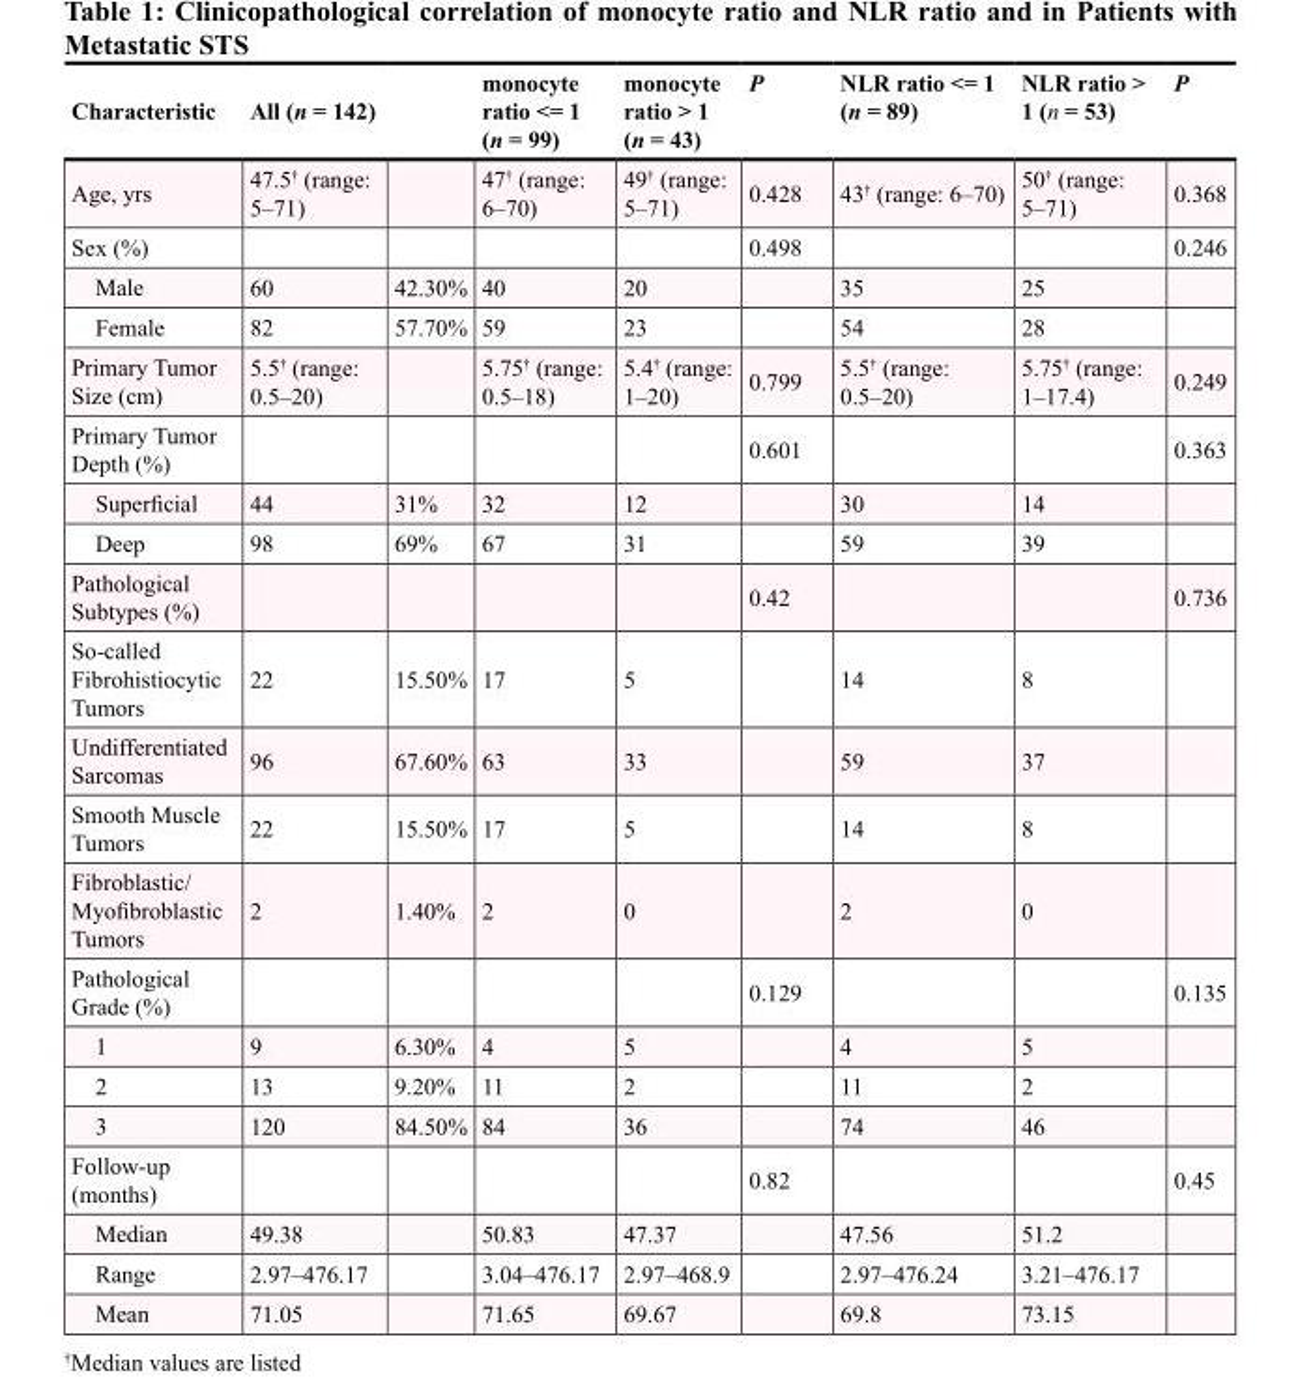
<table><thead><tr><td>Characteristic</td><td>All (n = 142)</td><td></td><td>monocyte ratio &lt;= 1 (n = 99)</td><td>monocyte ratio &gt; 1 (n = 43)</td><td>P</td><td>NLR ratio &lt;= 1 (n = 89)</td><td>NLR ratio &gt; 1 (n = 53)</td><td>P</td></tr></thead><tbody><tr><td>Age, yrs</td><td>47.5<sup>†</sup> (range: 5–71)</td><td></td><td>47<sup>†</sup> (range: 6–70)</td><td>49<sup>†</sup> (range: 5–71)</td><td>0.428</td><td>43<sup>†</sup> (range: 6–70)</td><td>50<sup>†</sup> (range: 5–71)</td><td>0.368</td></tr><tr><td>Sex (%)</td><td></td><td></td><td></td><td></td><td>0.498</td><td></td><td></td><td>0.246</td></tr><tr><td>Male</td><td>60</td><td>42.30%</td><td>40</td><td>20</td><td></td><td>35</td><td>25</td><td></td></tr><tr><td>Female</td><td>82</td><td>57.70%</td><td>59</td><td>23</td><td></td><td>54</td><td>28</td><td></td></tr><tr><td>Primary Tumor Size (cm)</td><td>5.5<sup>†</sup> (range: 0.5–20)</td><td></td><td>5.75<sup>†</sup> (range: 0.5–18)</td><td>5.4<sup>†</sup> (range: 1–20)</td><td>0.799</td><td>5.5<sup>†</sup> (range: 0.5–20)</td><td>5.75<sup>†</sup> (range: 1–17.4)</td><td>0.249</td></tr><tr><td>Primary Tumor Depth (%)</td><td></td><td></td><td></td><td></td><td>0.601</td><td></td><td></td><td>0.363</td></tr><tr><td>Superficial</td><td>44</td><td>31%</td><td>32</td><td>12</td><td></td><td>30</td><td>14</td><td></td></tr><tr><td>Deep</td><td>98</td><td>69%</td><td>67</td><td>31</td><td></td><td>59</td><td>39</td><td></td></tr><tr><td>Pathological Subtypes (%)</td><td></td><td></td><td></td><td></td><td>0.42</td><td></td><td></td><td>0.736</td></tr><tr><td>So-called Fibrohistiocytic Tumors</td><td>22</td><td>15.50%</td><td>17</td><td>5</td><td></td><td>14</td><td>8</td><td></td></tr><tr><td>Undifferentiated Sarcomas</td><td>96</td><td>67.60%</td><td>63</td><td>33</td><td></td><td>59</td><td>37</td><td></td></tr><tr><td>Smooth Muscle Tumors</td><td>22</td><td>15.50%</td><td>17</td><td>5</td><td></td><td>14</td><td>8</td><td></td></tr><tr><td>Fibroblastic/ Myofibroblastic Tumors</td><td>2</td><td>1.40%</td><td>2</td><td>0</td><td></td><td>2</td><td>0</td><td></td></tr><tr><td>Pathological Grade (%)</td><td></td><td></td><td></td><td></td><td>0.129</td><td></td><td></td><td>0.135</td></tr><tr><td>1</td><td>9</td><td>6.30%</td><td>4</td><td>5</td><td></td><td>4</td><td>5</td><td></td></tr><tr><td>2</td><td>13</td><td>9.20%</td><td>11</td><td>2</td><td></td><td>11</td><td>2</td><td></td></tr><tr><td>3</td><td>120</td><td>84.50%</td><td>84</td><td>36</td><td></td><td>74</td><td>46</td><td></td></tr><tr><td>Follow-up (months)</td><td></td><td></td><td></td><td></td><td>0.82</td><td></td><td></td><td>0.45</td></tr><tr><td>Median</td><td>49.38</td><td></td><td>50.83</td><td>47.37</td><td></td><td>47.56</td><td>51.2</td><td></td></tr><tr><td>Range</td><td>2.97–476.17</td><td></td><td>3.04–476.17</td><td>2.97–468.9</td><td></td><td>2.97–476.24</td><td>3.21–476.17</td><td></td></tr><tr><td>Mean</td><td>71.05</td><td></td><td>71.65</td><td>69.67</td><td></td><td>69.8</td><td>73.15</td><td></td></tr></tbody></table>